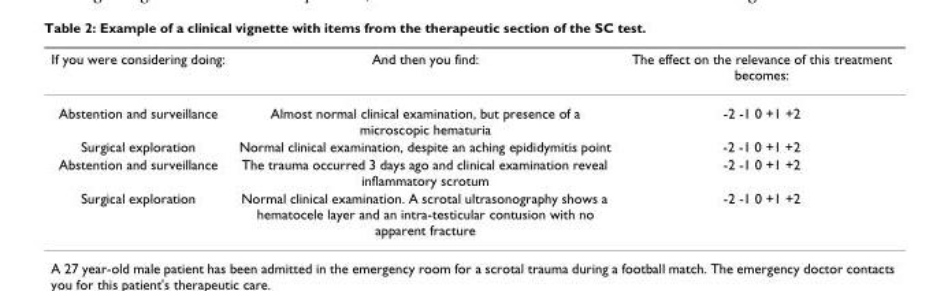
<table><thead><tr><td>If you were considering doing:</td><td>And then you find:</td><td>The effect on the relevance of this treatment becomes:</td></tr></thead><tbody><tr><td>Abstention and surveillance</td><td>Almost normal clinical examination, but presence of a microscopic hematuria</td><td>-2 -1 0 +1 +2</td></tr><tr><td>Surgical exploration</td><td>Normal clinical examination, despite an aching epididymitis point</td><td>-2 -1 0 +1 +2</td></tr><tr><td>Abstention and surveillance</td><td>The trauma occurred 3 days ago and clinical examination reveal inflammatory scrotum</td><td>-2 -1 0 +1 +2</td></tr><tr><td>Surgical exploration</td><td>Normal clinical examination. A scrotal ultrasonography shows a hematocele layer and an intra-testicular contusion with no apparent fracture</td><td>-2 -1 0 +1 +2</td></tr></tbody></table>